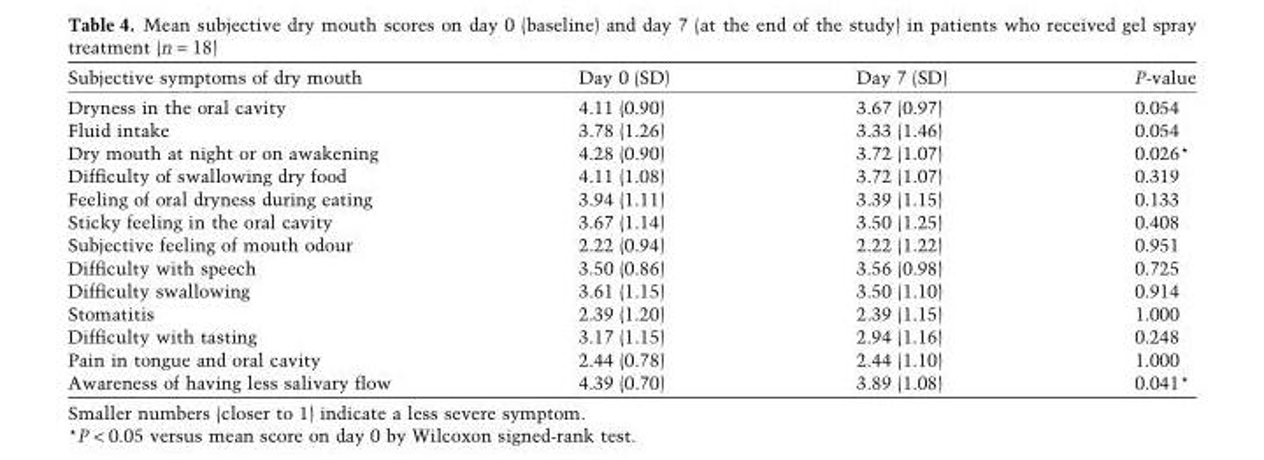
<table><thead><tr><td>Subjective symptoms of dry mouth</td><td>Day 0 (SD)</td><td>Day 7 (SD)</td><td>P-value</td></tr></thead><tbody><tr><td>Dryness in the oral cavity</td><td>4.11 (0.90)</td><td>3.67 (0.97)</td><td>0.054</td></tr><tr><td>Fluid intake</td><td>3.78 (1.26)</td><td>3.33 (1.46)</td><td>0.054</td></tr><tr><td>Dry mouth at night or on awakening</td><td>4.28 (0.90)</td><td>3.72 (1.07)</td><td>0.026*</td></tr><tr><td>Difficulty of swallowing dry food</td><td>4.11 (1.08)</td><td>3.72 (1.07)</td><td>0.319</td></tr><tr><td>Feeling of oral dryness during eating</td><td>3.94 (1.11)</td><td>3.39 (1.15)</td><td>0.133</td></tr><tr><td>Sticky feeling in the oral cavity</td><td>3.67 (1.14)</td><td>3.50 (1.25)</td><td>0.408</td></tr><tr><td>Subjective feeling of mouth odour</td><td>2.22 (0.94)</td><td>2.22 (1.22)</td><td>0.951</td></tr><tr><td>Difficulty with speech</td><td>3.50 (0.86)</td><td>3.56 (0.98)</td><td>0.725</td></tr><tr><td>Difficulty swallowing</td><td>3.61 (1.15)</td><td>3.50 (1.10)</td><td>0.914</td></tr><tr><td>Stomatitis</td><td>2.39 (1.20)</td><td>2.39 (1.15)</td><td>1.000</td></tr><tr><td>Difficulty with tasting</td><td>3.17 (1.15)</td><td>2.94 (1.16)</td><td>0.248</td></tr><tr><td>Pain in tongue and oral cavity</td><td>2.44 (0.78)</td><td>2.44 (1.10)</td><td>1.000</td></tr><tr><td>Awareness of having less salivary flow</td><td>4.39 (0.70)</td><td>3.89 (1.08)</td><td>0.041*</td></tr></tbody></table>